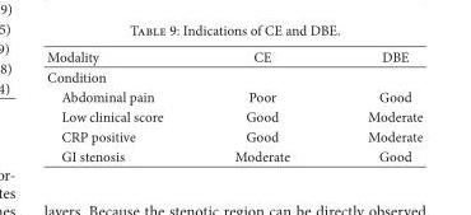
<table><thead><tr><td>Modality</td><td>CE</td><td>DBE</td></tr></thead><tbody><tr><td colspan="3">Condition</td></tr><tr><td>Abdominal pain</td><td>Poor</td><td>Good</td></tr><tr><td>Low clinical score</td><td>Good</td><td>Moderate</td></tr><tr><td>CRP positive</td><td>Good</td><td>Moderate</td></tr><tr><td>GI stenosis</td><td>Moderate</td><td>Good</td></tr></tbody></table>